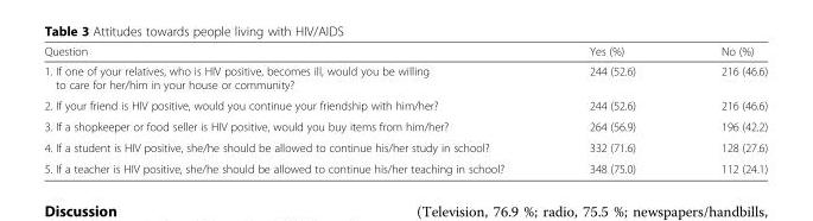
<table><thead><tr><td>Question</td><td>Yes (%)</td><td>No (%)</td></tr></thead><tbody><tr><td>1. If one of your relatives, who is HIV positive, becomes ill, would you be willing to care for her/him in your house or community?</td><td>244 (52.6)</td><td>216 (46.6)</td></tr><tr><td>2. If your friend is HIV positive, would you continue your friendship with him/her?</td><td>244 (52.6)</td><td>216 (46.6)</td></tr><tr><td>3. If a shopkeeper or food seller is HIV positive, would you buy items from him/her?</td><td>264 (56.9)</td><td>196 (42.2)</td></tr><tr><td>4. If a student is HIV positive, she/he should be allowed to continue his/her study in school?</td><td>332 (71.6)</td><td>128 (27.6)</td></tr><tr><td>5. If a teacher is HIV positive, she/he should be allowed to continue his/her teaching in school?</td><td>348 (75.0)</td><td>112 (24.1)</td></tr></tbody></table>